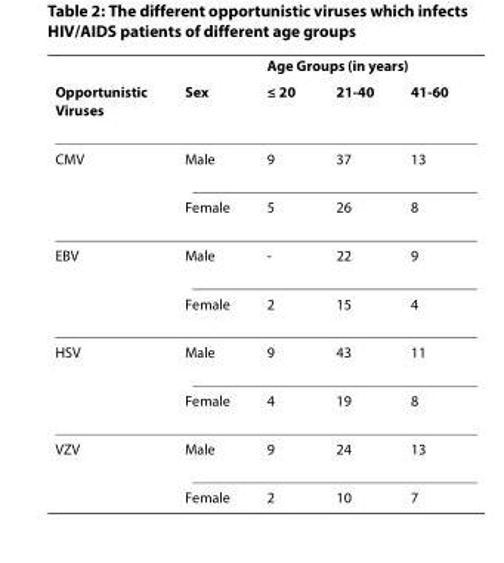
<table><thead><tr><td rowspan="2">Opportunistic Viruses</td><td rowspan="2">Sex</td><td colspan="3">Age Groups (in years)</td></tr><tr><td>≤ 20</td><td>21-40</td><td>41-60</td></tr></thead><tbody><tr><td rowspan="2">CMV</td><td>Male</td><td>9</td><td>37</td><td>13</td></tr><tr><td>Female</td><td>5</td><td>26</td><td>8</td></tr><tr><td rowspan="2">EBV</td><td>Male</td><td>-</td><td>22</td><td>9</td></tr><tr><td>Female</td><td>2</td><td>15</td><td>4</td></tr><tr><td rowspan="2">HSV</td><td>Male</td><td>9</td><td>43</td><td>11</td></tr><tr><td>Female</td><td>4</td><td>19</td><td>8</td></tr><tr><td rowspan="2">VZV</td><td>Male</td><td>9</td><td>24</td><td>13</td></tr><tr><td>Female</td><td>2</td><td>10</td><td>7</td></tr></tbody></table>